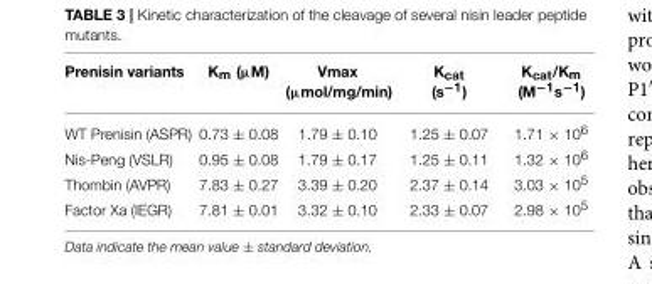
<table><thead><tr><td>Prenisin variants</td><td>K<sub>m</sub> (µM)</td><td>Vmax (µmol/mg/min)</td><td>K<sub>cat</sub> (s<sup>−1</sup>)</td><td>K<sub>cat</sub>/K<sub>m</sub> (M<sup>−1</sup>s<sup>−1</sup>)</td></tr></thead><tbody><tr><td>WT Prenisin (ASPR)</td><td>0.73 ± 0.08</td><td>1.79 ± 0.10</td><td>1.25 ± 0.07</td><td>1.71 × 10<sup>6</sup></td></tr><tr><td>Nis-Peng (VSLR)</td><td>0.95 ± 0.08</td><td>1.79 ± 0.17</td><td>1.25 ± 0.11</td><td>1.32 × 10<sup>6</sup></td></tr><tr><td>Thombin (AVPR)</td><td>7.83 ± 0.27</td><td>3.39 ± 0.20</td><td>2.37 ± 0.14</td><td>3.03 × 10<sup>5</sup></td></tr><tr><td>Factor Xa (IEGR)</td><td>7.81 ± 0.01</td><td>3.32 ± 0.10</td><td>2.33 ± 0.07</td><td>2.98 × 10<sup>5</sup></td></tr></tbody></table>